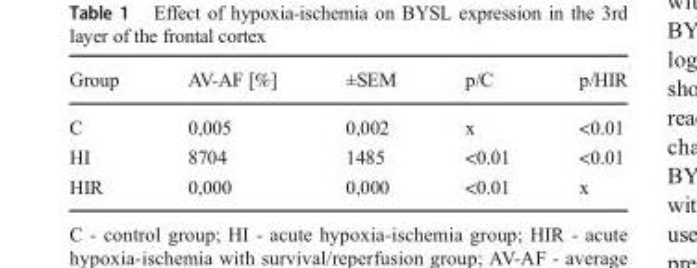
<table><thead><tr><td>Group</td><td>AV-AF [%]</td><td>±SEM</td><td>p/C</td><td>p/HIR</td></tr></thead><tbody><tr><td>C</td><td>0,005</td><td>0,002</td><td>x</td><td>&lt;0.01</td></tr><tr><td>HI</td><td>8704</td><td>1485</td><td>&lt;0.01</td><td>&lt;0.01</td></tr><tr><td>HIR</td><td>0,000</td><td>0,000</td><td>&lt;0.01</td><td>x</td></tr></tbody></table>